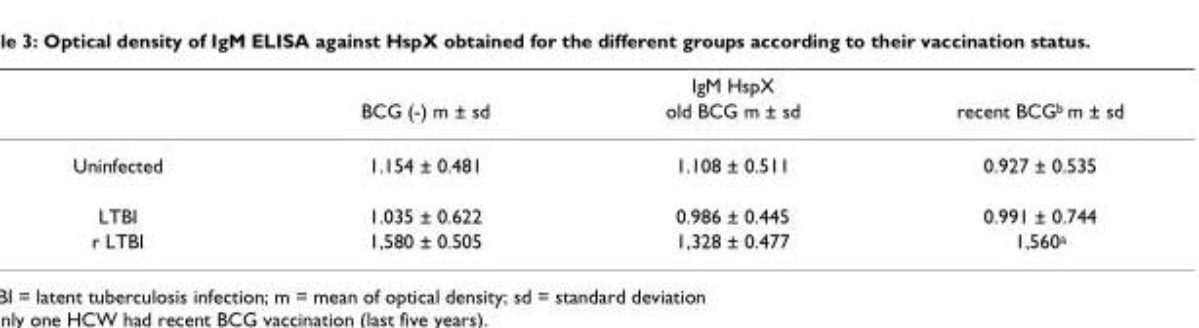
<table><thead><tr><td rowspan="2"></td><td colspan="3">IgM HspX</td></tr><tr><td>BCG (-) m ± sd</td><td>old BCG m ± sd</td><td>recent BCG<sup>b</sup> m ± sd</td></tr></thead><tbody><tr><td>Uninfected</td><td>1.154 ± 0.481</td><td>1.108 ± 0.511</td><td>0.927 ± 0.535</td></tr><tr><td>LTBI</td><td>1.035 ± 0.622</td><td>0.986 ± 0.445</td><td>0.991 ± 0.744</td></tr><tr><td>r LTBI</td><td>1,580 ± 0.505</td><td>1,328 ± 0.477</td><td>1,560<sup>a</sup></td></tr></tbody></table>